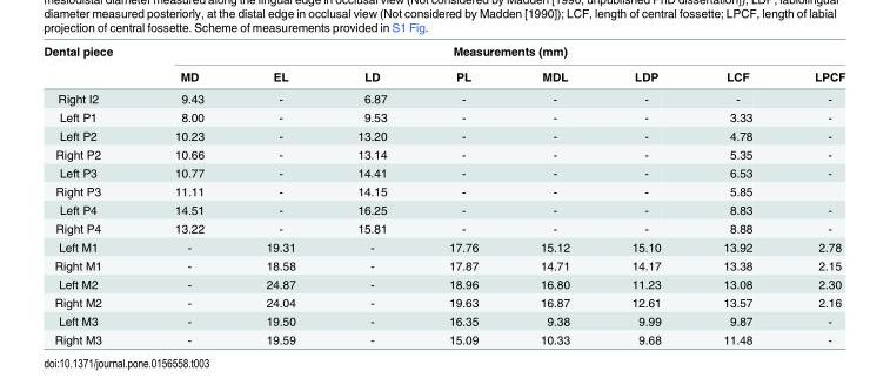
<table><thead><tr><td rowspan="2">Dental piece</td><td colspan="8">Measurements (mm)</td></tr><tr><td>MD</td><td>EL</td><td>LD</td><td>PL</td><td>MDL</td><td>LDP</td><td>LCF</td><td>LPCF</td></tr></thead><tbody><tr><td>Right I2</td><td>9.43</td><td>-</td><td>6.87</td><td>-</td><td>-</td><td>-</td><td>-</td><td>-</td></tr><tr><td>Left P1</td><td>8.00</td><td>-</td><td>9.53</td><td>-</td><td>-</td><td>-</td><td>3.33</td><td>-</td></tr><tr><td>Left P2</td><td>10.23</td><td>-</td><td>13.20</td><td>-</td><td>-</td><td>-</td><td>4.78</td><td>-</td></tr><tr><td>Right P2</td><td>10.66</td><td>-</td><td>13.14</td><td>-</td><td>-</td><td>-</td><td>5.35</td><td>-</td></tr><tr><td>Left P3</td><td>10.77</td><td>-</td><td>14.41</td><td>-</td><td>-</td><td>-</td><td>6.53</td><td>-</td></tr><tr><td>Right P3</td><td>11.11</td><td>-</td><td>14.15</td><td>-</td><td>-</td><td>-</td><td>5.85</td><td></td></tr><tr><td>Left P4</td><td>14.51</td><td>-</td><td>16.25</td><td>-</td><td>-</td><td>-</td><td>8.83</td><td>-</td></tr><tr><td>Right P4</td><td>13.22</td><td>-</td><td>15.81</td><td>-</td><td>-</td><td>-</td><td>8.88</td><td>-</td></tr><tr><td>Left M1</td><td>-</td><td>19.31</td><td>-</td><td>17.76</td><td>15.12</td><td>15.10</td><td>13.92</td><td>2.78</td></tr><tr><td>Right M1</td><td>-</td><td>18.58</td><td>-</td><td>17.87</td><td>14.71</td><td>14.17</td><td>13.38</td><td>2.15</td></tr><tr><td>Left M2</td><td>-</td><td>24.87</td><td>-</td><td>18.96</td><td>16.80</td><td>11.23</td><td>13.08</td><td>2.30</td></tr><tr><td>Right M2</td><td>-</td><td>24.04</td><td>-</td><td>19.63</td><td>16.87</td><td>12.61</td><td>13.57</td><td>2.16</td></tr><tr><td>Left M3</td><td>-</td><td>19.50</td><td>-</td><td>16.35</td><td>9.38</td><td>9.99</td><td>9.87</td><td>-</td></tr><tr><td>Right M3</td><td>-</td><td>19.59</td><td>-</td><td>15.09</td><td>10.33</td><td>9.68</td><td>11.48</td><td>-</td></tr></tbody></table>